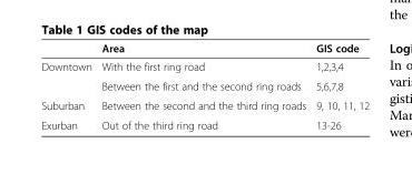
<table><thead><tr><td></td><td>Area</td><td>GIS code</td></tr></thead><tbody><tr><td rowspan="2">Downtown</td><td>With the first ring road</td><td>1,2,3,4</td></tr><tr><td>Between the first and the second ring roads</td><td>5,6,7,8</td></tr><tr><td>Suburban</td><td>Between the second and the third ring roads</td><td>9, 10, 11, 12</td></tr><tr><td>Exurban</td><td>Out of the third ring road</td><td>13-26</td></tr></tbody></table>